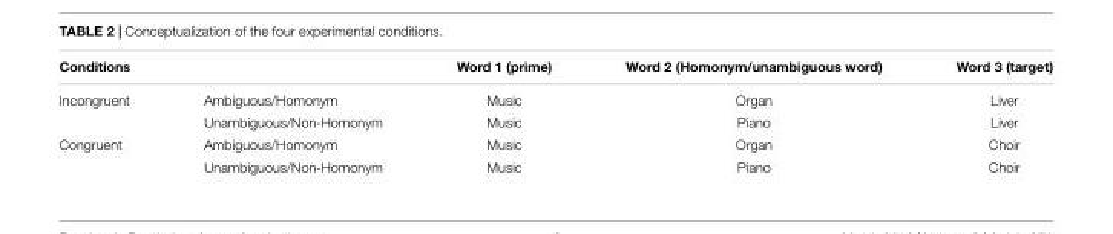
<table><thead><tr><td>Conditions</td><td></td><td>Word 1 (prime)</td><td>Word 2 (Homonym/unambiguous word)</td><td>Word 3 (target)</td></tr></thead><tbody><tr><td rowspan="2">Incongruent</td><td>Ambiguous/Homonym</td><td>Music</td><td>Organ</td><td>Liver</td></tr><tr><td>Unambiguous/Non-Homonym</td><td>Music</td><td>Piano</td><td>Liver</td></tr><tr><td rowspan="2">Congruent</td><td>Ambiguous/Homonym</td><td>Music</td><td>Organ</td><td>Choir</td></tr><tr><td>Unambiguous/Non-Homonym</td><td>Music</td><td>Piano</td><td>Choir</td></tr></tbody></table>